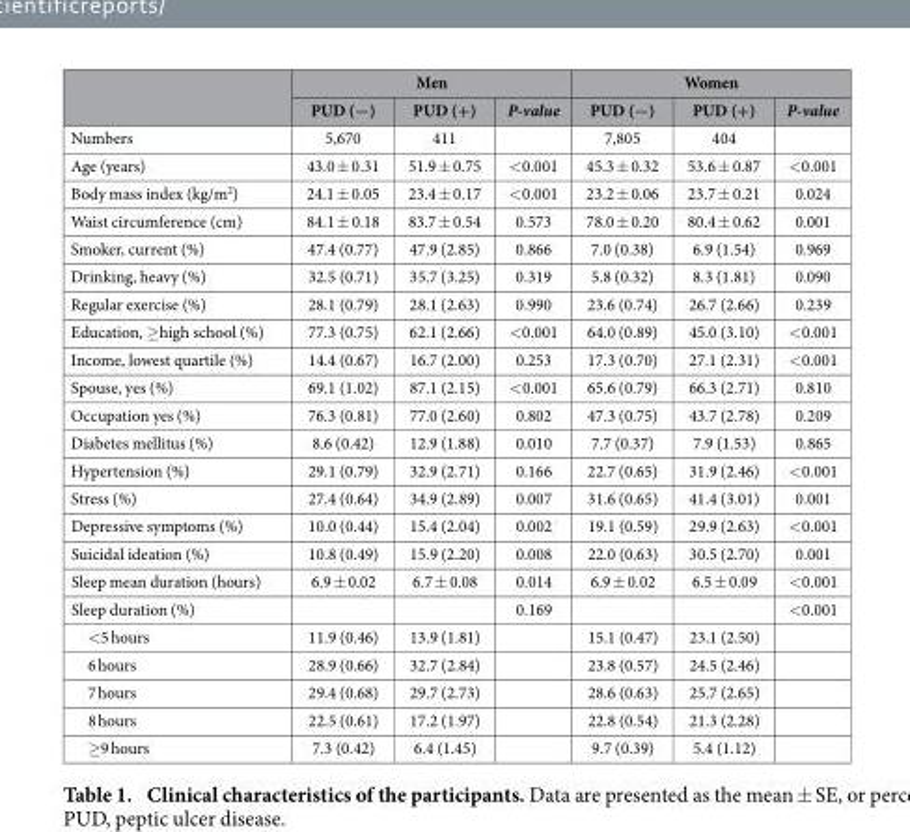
<table><thead><tr><td rowspan="2"></td><td colspan="3">Men</td><td colspan="3">Women</td></tr><tr><td>PUD (−)</td><td>PUD (+)</td><td>P-value</td><td>PUD (−)</td><td>PUD (+)</td><td>P-value</td></tr></thead><tbody><tr><td>Numbers</td><td>5,670</td><td>411</td><td></td><td>7,805</td><td>404</td><td></td></tr><tr><td>Age (years)</td><td>43.0 ± 0.31</td><td>51.9 ± 0.75</td><td>&lt; 0.001</td><td>45.3 ± 0.32</td><td>53.6 ± 0.87</td><td>&lt; 0.001</td></tr><tr><td>Body mass index (kg/m<sup>2</sup>)</td><td>24.1 ± 0.05</td><td>23.4 ± 0.17</td><td>&lt; 0.001</td><td>23.2 ± 0.06</td><td>23.7 ± 0.21</td><td>0.024</td></tr><tr><td>Waist circumference (cm)</td><td>84.1 ± 0.18</td><td>83.7 ± 0.54</td><td>0.573</td><td>78.0 ± 0.20</td><td>80.4 ± 0.62</td><td>0.001</td></tr><tr><td>Smoker, current (%)</td><td>47.4 (0.77)</td><td>47.9 (2.85)</td><td>0.866</td><td>7.0 (0.38)</td><td>6.9 (1.54)</td><td>0.969</td></tr><tr><td>Drinking, heavy (%)</td><td>32.5 (0.71)</td><td>35.7 (3.25)</td><td>0.319</td><td>5.8 (0.32)</td><td>8.3 (1.81)</td><td>0.090</td></tr><tr><td>Regular exercise (%)</td><td>28.1 (0.79)</td><td>28.1 (2.63)</td><td>0.990</td><td>23.6 (0.74)</td><td>26.7 (2.66)</td><td>0.239</td></tr><tr><td>Education, ≥ high school (%)</td><td>77.3 (0.75)</td><td>62.1 (2.66)</td><td>&lt; 0.001</td><td>64.0 (0.89)</td><td>45.0 (3.10)</td><td>&lt; 0.001</td></tr><tr><td>Income, lowest quartile (%)</td><td>14.4 (0.67)</td><td>16.7 (2.00)</td><td>0.253</td><td>17.3 (0.70)</td><td>27.1 (2.31)</td><td>&lt; 0.001</td></tr><tr><td>Spouse, yes (%)</td><td>69.1 (1.02)</td><td>87.1 (2.15)</td><td>&lt; 0.001</td><td>65.6 (0.79)</td><td>66.3 (2.71)</td><td>0.810</td></tr><tr><td>Occupation yes (%)</td><td>76.3 (0.81)</td><td>77.0 (2.60)</td><td>0.802</td><td>47.3 (0.75)</td><td>43.7 (2.78)</td><td>0.209</td></tr><tr><td>Diabetes mellitus (%)</td><td>8.6 (0.42)</td><td>12.9 (1.88)</td><td>0.010</td><td>7.7 (0.37)</td><td>7.9 (1.53)</td><td>0.865</td></tr><tr><td>Hypertension (%)</td><td>29.1 (0.79)</td><td>32.9 (2.71)</td><td>0.166</td><td>22.7 (0.65)</td><td>31.9 (2.46)</td><td>&lt; 0.001</td></tr><tr><td>Stress (%)</td><td>27.4 (0.64)</td><td>34.9 (2.89)</td><td>0.007</td><td>31.6 (0.65)</td><td>41.4 (3.01)</td><td>0.001</td></tr><tr><td>Depressive symptoms (%)</td><td>10.0 (0.44)</td><td>15.4 (2.04)</td><td>0.002</td><td>19.1 (0.59)</td><td>29.9 (2.63)</td><td>&lt; 0.001</td></tr><tr><td>Suicidal ideation (%)</td><td>10.8 (0.49)</td><td>15.9 (2.20)</td><td>0.008</td><td>22.0 (0.63)</td><td>30.5 (2.70)</td><td>0.001</td></tr><tr><td>Sleep mean duration (hours)</td><td>6.9 ± 0.02</td><td>6.7 ± 0.08</td><td>0.014</td><td>6.9 ± 0.02</td><td>6.5 ± 0.09</td><td>&lt; 0.001</td></tr><tr><td>Sleep duration (%)</td><td></td><td></td><td>0.169</td><td></td><td></td><td>&lt; 0.001</td></tr><tr><td>&lt; 5 hours</td><td>11.9 (0.46)</td><td>13.9 (1.81)</td><td></td><td>15.1 (0.47)</td><td>23.1 (2.50)</td><td></td></tr><tr><td>6 hours</td><td>28.9 (0.66)</td><td>32.7 (2.84)</td><td></td><td>23.8 (0.57)</td><td>24.5 (2.46)</td><td></td></tr><tr><td>7 hours</td><td>29.4 (0.68)</td><td>29.7 (2.73)</td><td></td><td>28.6 (0.63)</td><td>25.7 (2.65)</td><td></td></tr><tr><td>8 hours</td><td>22.5 (0.61)</td><td>17.2 (1.97)</td><td></td><td>22.8 (0.54)</td><td>21.3 (2.28)</td><td></td></tr><tr><td>≥ 9 hours</td><td>7.3 (0.42)</td><td>6.4 (1.45)</td><td></td><td>9.7 (0.39)</td><td>5.4 (1.12)</td><td></td></tr></tbody></table>